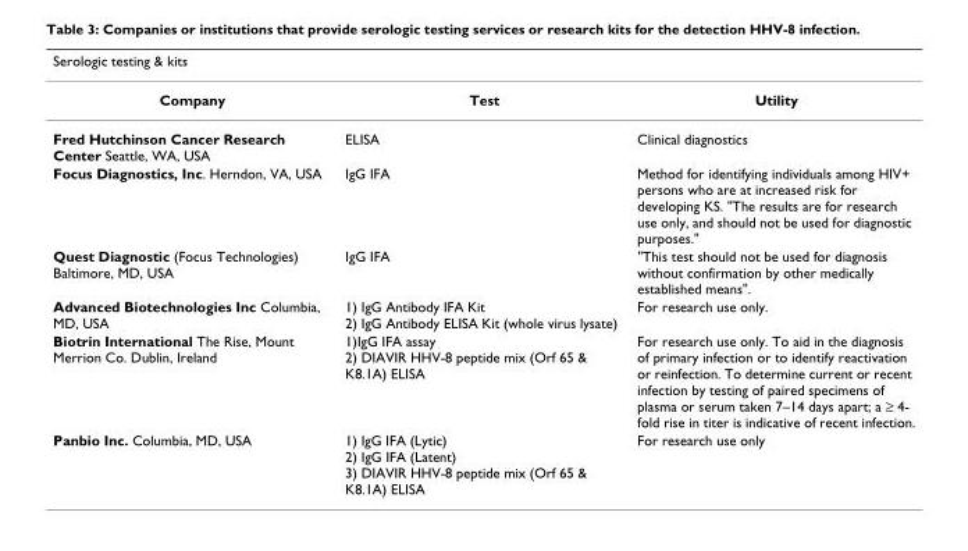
<table><thead><tr><td>Serologic testing &amp; kits</td><td></td><td></td></tr></thead><tbody><tr><td>Company</td><td>Test</td><td>Utility</td></tr><tr><td>Fred Hutchinson Cancer Research Center Seattle, WA, USA</td><td>ELISA</td><td>Clinical diagnostics</td></tr><tr><td>Focus Diagnostics, Inc. Herndon, VA, USA</td><td>IgG IFA</td><td>Method for identifying individuals among HIV+ persons who are at increased risk for developing KS. &quot;The results are for research use only, and should not be used for diagnostic purposes.&quot;</td></tr><tr><td>Quest Diagnostic (Focus Technologies) Baltimore, MD, USA</td><td>IgG IFA</td><td>&quot;This test should not be used for diagnosis without confirmation by other medically established means&quot;.</td></tr><tr><td>Advanced Biotechnologies Inc Columbia, MD, USA</td><td>1) IgG Antibody IFA Kit 2) IgG Antibody ELISA Kit (whole virus lysate)</td><td>For research use only.</td></tr><tr><td>Biotrin International The Rise, Mount Merrion Co. Dublin, Ireland</td><td>1)IgG IFA assay 2) DIAVIR HHV-8 peptide mix (Orf 65 &amp; K8.1A) ELISA</td><td>For research use only. To aid in the diagnosis of primary infection or to identify reactivation or reinfection. To determine current or recent infection by testing of paired specimens of plasma or serum taken 7–14 days apart; a ≥ 4- fold rise in titer is indicative of recent infection.</td></tr><tr><td>Panbio Inc. Columbia, MD, USA</td><td>1) IgG IFA (Lytic) 2) IgG IFA (Latent) 3) DIAVIR HHV-8 peptide mix (Orf 65 &amp; K8.1A) ELISA</td><td>For research use only</td></tr></tbody></table>